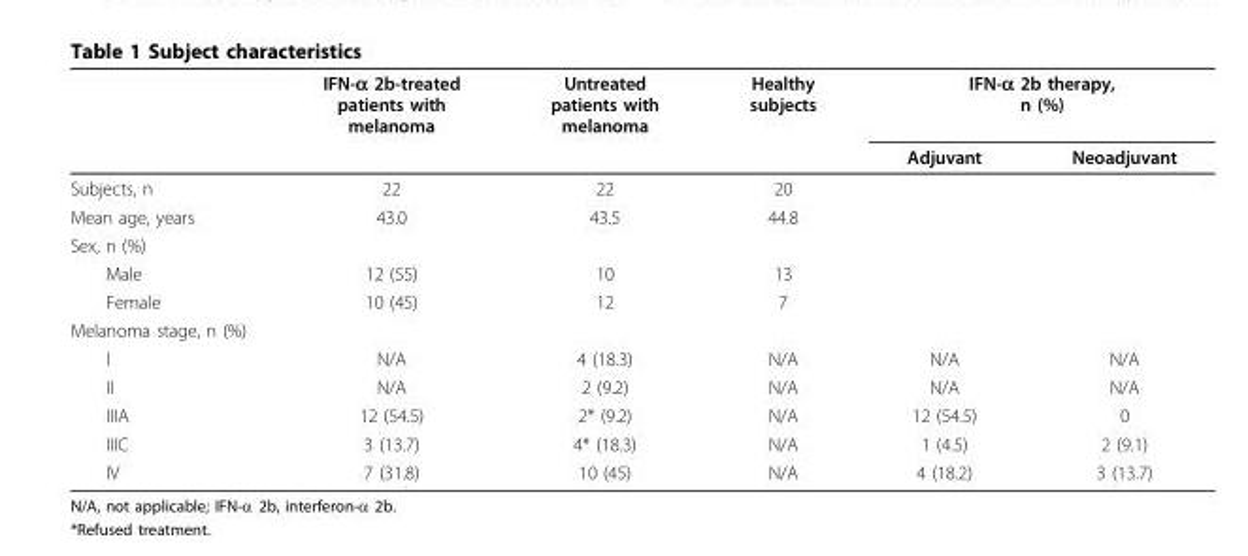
<table><thead><tr><td rowspan="2"></td><td rowspan="2">IFN-α 2b-treated patients with melanoma</td><td rowspan="2">Untreated patients with melanoma</td><td rowspan="2">Healthy subjects</td><td colspan="2">IFN-α 2b therapy, n (%)</td></tr><tr><td>Adjuvant</td><td>Neoadjuvant</td></tr></thead><tbody><tr><td>Subjects, n</td><td>22</td><td>22</td><td>20</td><td></td><td></td></tr><tr><td>Mean age, years</td><td>43.0</td><td>43.5</td><td>44.8</td><td></td><td></td></tr><tr><td colspan="6">Sex, n (%)</td></tr><tr><td>Male</td><td>12 (55)</td><td>10</td><td>13</td><td></td><td></td></tr><tr><td>Female</td><td>10 (45)</td><td>12</td><td>7</td><td></td><td></td></tr><tr><td colspan="6">Melanoma stage, n (%)</td></tr><tr><td>I</td><td>N/A</td><td>4 (18.3)</td><td>N/A</td><td>N/A</td><td>N/A</td></tr><tr><td>II</td><td>N/A</td><td>2 (9.2)</td><td>N/A</td><td>N/A</td><td>N/A</td></tr><tr><td>IIIA</td><td>12 (54.5)</td><td>2* (9.2)</td><td>N/A</td><td>12 (54.5)</td><td>0</td></tr><tr><td>IIIC</td><td>3 (13.7)</td><td>4* (18.3)</td><td>N/A</td><td>1 (4.5)</td><td>2 (9.1)</td></tr><tr><td>IV</td><td>7 (31.8)</td><td>10 (45)</td><td>N/A</td><td>4 (18.2)</td><td>3 (13.7)</td></tr></tbody></table>